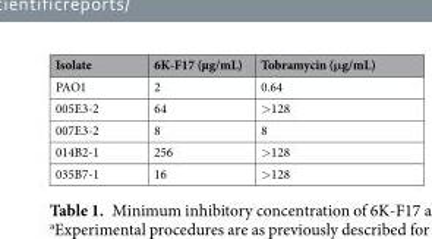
<table><thead><tr><td>Isolate</td><td>6K-F17 (µg/mL)</td><td>Tobramycin (μg/mL)</td></tr></thead><tbody><tr><td>PAO1</td><td>2</td><td>0.64</td></tr><tr><td>005E3-2</td><td>64</td><td>&gt;128</td></tr><tr><td>007E3-2</td><td>8</td><td>8</td></tr><tr><td>014B2-1</td><td>256</td><td>&gt;128</td></tr><tr><td>035B7-1</td><td>16</td><td>&gt;128</td></tr></tbody></table>